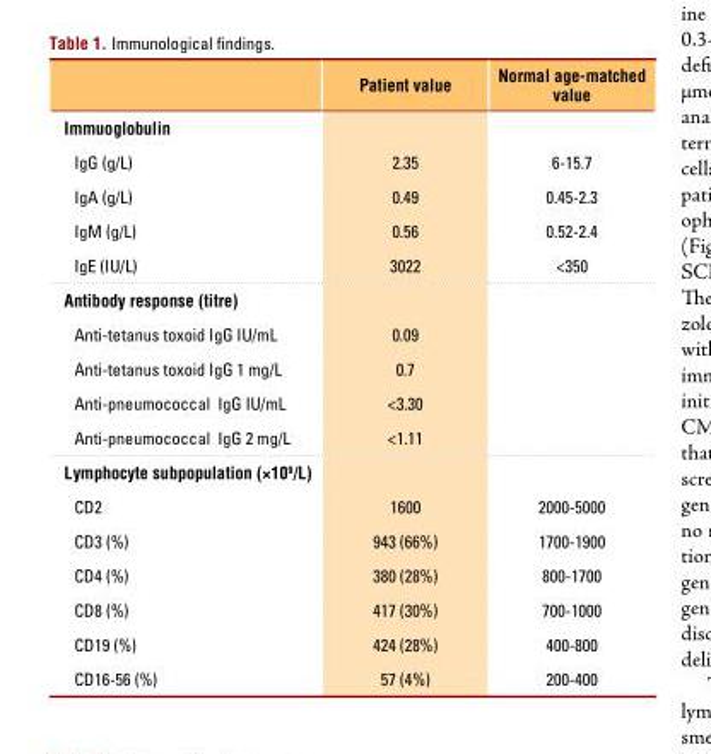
<table><thead><tr><td></td><td>Patient value</td><td>Normal age-matched value</td></tr></thead><tbody><tr><td colspan="3">Immuoglobulin</td></tr><tr><td>IgG (g/L)</td><td>2.35</td><td>6-15.7</td></tr><tr><td>IgA (g/L)</td><td>0.49</td><td>0.45-2.3</td></tr><tr><td>IgM (g/L)</td><td>0.56</td><td>0.52-2.4</td></tr><tr><td>IgE (IU/L)</td><td>3022</td><td>&lt;350</td></tr><tr><td colspan="3">Antibody response (titre)</td></tr><tr><td>Anti-tetanus toxoid IgG IU/mL</td><td>0.09</td><td></td></tr><tr><td>Anti-tetanus toxoid IgG 1 mg/L</td><td>0.7</td><td></td></tr><tr><td>Anti-pneumococcal IgG IU/mL</td><td>&lt;3.30</td><td></td></tr><tr><td>Anti-pneumococcal IgG 2 mg/L</td><td>&lt;1.11</td><td></td></tr><tr><td colspan="3">Lymphocyte subpopulation (×10<sup>9</sup>/L)</td></tr><tr><td>CD2</td><td>1600</td><td>2000-5000</td></tr><tr><td>CD3 (%)</td><td>943 (66%)</td><td>1700-1900</td></tr><tr><td>CD4 (%)</td><td>380 (28%)</td><td>800-1700</td></tr><tr><td>CD8 (%)</td><td>417 (30%)</td><td>700-1000</td></tr><tr><td>CD19 (%)</td><td>424 (28%)</td><td>400-800</td></tr><tr><td>CD16-56 (%)</td><td>57 (4%)</td><td>200-400</td></tr></tbody></table>